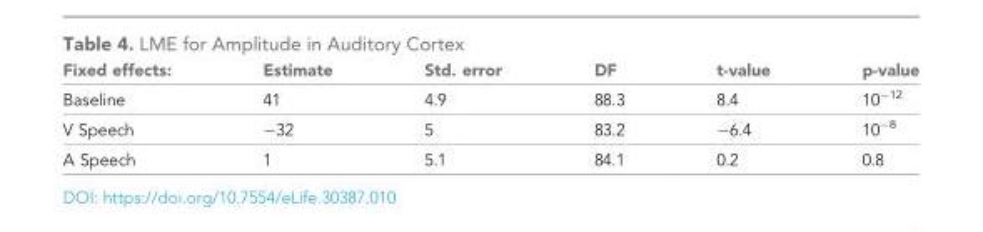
<table><thead><tr><td>Fixed effects:</td><td>Estimate</td><td>Std. error</td><td>DF</td><td>t-value</td><td>p-value</td></tr></thead><tbody><tr><td>Baseline</td><td>41</td><td>4.9</td><td>88.3</td><td>8.4</td><td>10<sup>−12</sup></td></tr><tr><td>V Speech</td><td>−32</td><td>5</td><td>83.2</td><td>−6.4</td><td>10<sup>−8</sup></td></tr><tr><td>A Speech</td><td>1</td><td>5.1</td><td>84.1</td><td>0.2</td><td>0.8</td></tr></tbody></table>